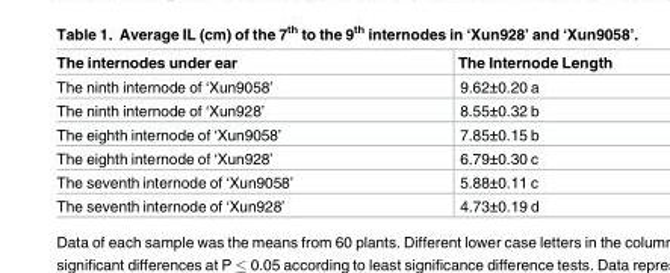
<table><thead><tr><td>The internodes under ear</td><td>The Internode Length</td></tr></thead><tbody><tr><td>The ninth internode of ‘Xun9058’</td><td>9.62±0.20 a</td></tr><tr><td>The ninth internode of ‘Xun928’</td><td>8.55±0.32 b</td></tr><tr><td>The eighth internode of ‘Xun9058’</td><td>7.85±0.15 b</td></tr><tr><td>The eighth internode of ‘Xun928’</td><td>6.79±0.30 c</td></tr><tr><td>The seventh internode of ‘Xun9058’</td><td>5.88±0.11 c</td></tr><tr><td>The seventh internode of ‘Xun928’</td><td>4.73±0.19 d</td></tr></tbody></table>